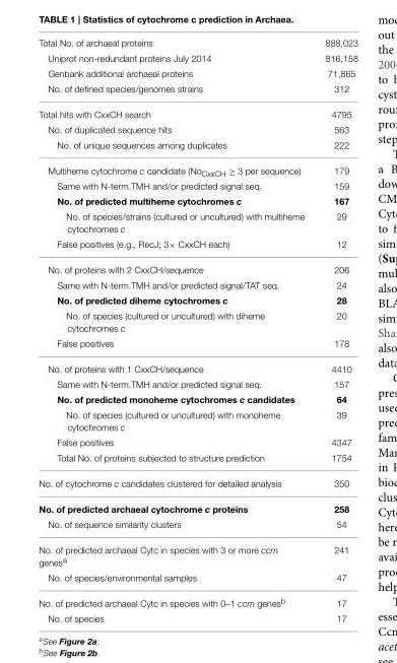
<table><tbody><tr><td>Total No. of archaeal proteins</td><td>888,023</td></tr><tr><td>Uniprot non-redundant proteins July 2014</td><td>816,158</td></tr><tr><td>Genbank additional archaeal proteins</td><td>71,865</td></tr><tr><td>No. of defined species/genomes strains</td><td>312</td></tr><tr><td>Total hits with CxxCH search</td><td>4795</td></tr><tr><td>No. of duplicated sequence hits</td><td>563</td></tr><tr><td>No. of unique sequences among duplicates</td><td>222</td></tr><tr><td>Multiheme cytochrome c candidate (No<sub>CxxCH</sub> ≥ 3 per sequence)</td><td>179</td></tr><tr><td>Same with N-term.TMH and/or predicted signal seq.</td><td>159</td></tr><tr><td>No. of predicted multiheme cytochromes c</td><td>167</td></tr><tr><td>No. of species/strains (cultured or uncultured) with multiheme cytochromes c</td><td>29</td></tr><tr><td>False positives (e.g., RecJ; 3× CxxCH each)</td><td>12</td></tr><tr><td>No. of proteins with 2 CxxCH/sequence</td><td>206</td></tr><tr><td>Same with N-term.TMH and/or predicted signal/TAT seq.</td><td>24</td></tr><tr><td>No. of predicted diheme cytochromes c</td><td>28</td></tr><tr><td>No. of species (cultured or uncultured) with diheme cytochromes c</td><td>20</td></tr><tr><td>False positives</td><td>178</td></tr><tr><td>No. of proteins with 1 CxxCH/sequence</td><td>4410</td></tr><tr><td>Same with N-term.TMH and/or predicted signal seq.</td><td>157</td></tr><tr><td>No. of predicted monoheme cytochromes c candidates</td><td>64</td></tr><tr><td>No. of species (cultured or uncultured) with monoheme cytochromes c</td><td>39</td></tr><tr><td>False positives</td><td>4347</td></tr><tr><td>Total No. of proteins subjected to structure prediction</td><td>1754</td></tr><tr><td>No. of cytochrome c candidates clustered for detailed analysis</td><td>350</td></tr><tr><td>No. of predicted archaeal cytochrome c proteins</td><td>258</td></tr><tr><td>No. of sequence similarity clusters</td><td>54</td></tr><tr><td>No. of predicted archaeal Cytc in species with 3 or more ccm genes<sup>a</sup></td><td>241</td></tr><tr><td>No. of species/environmental samples</td><td>47</td></tr><tr><td>No. of predicted archaeal Cytc in species with 0–1 ccm genes<sup>b</sup></td><td>17</td></tr><tr><td>No. of species</td><td>17</td></tr></tbody></table>